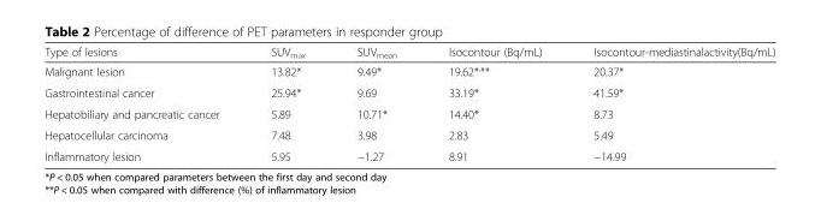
<table><thead><tr><td>Type of lesions</td><td>SUV<sub>max</sub></td><td>SUV<sub>mean</sub></td><td>Isocontour (Bq/mL)</td><td>Isocontour-mediastinalactivity(Bq/mL)</td></tr></thead><tbody><tr><td>Malignant lesion</td><td>13.82*</td><td>9.49*</td><td>19.62*<sup>,</sup>**</td><td>20.37*</td></tr><tr><td>Gastrointestinal cancer</td><td>25.94*</td><td>9.69</td><td>33.19*</td><td>41.59*</td></tr><tr><td>Hepatobiliary and pancreatic cancer</td><td>5.89</td><td>10.71*</td><td>14.40*</td><td>8.73</td></tr><tr><td>Hepatocellular carcinoma</td><td>7.48</td><td>3.98</td><td>2.83</td><td>5.49</td></tr><tr><td>Inflammatory lesion</td><td>5.95</td><td>−1.27</td><td>8.91</td><td>−14.99</td></tr></tbody></table>